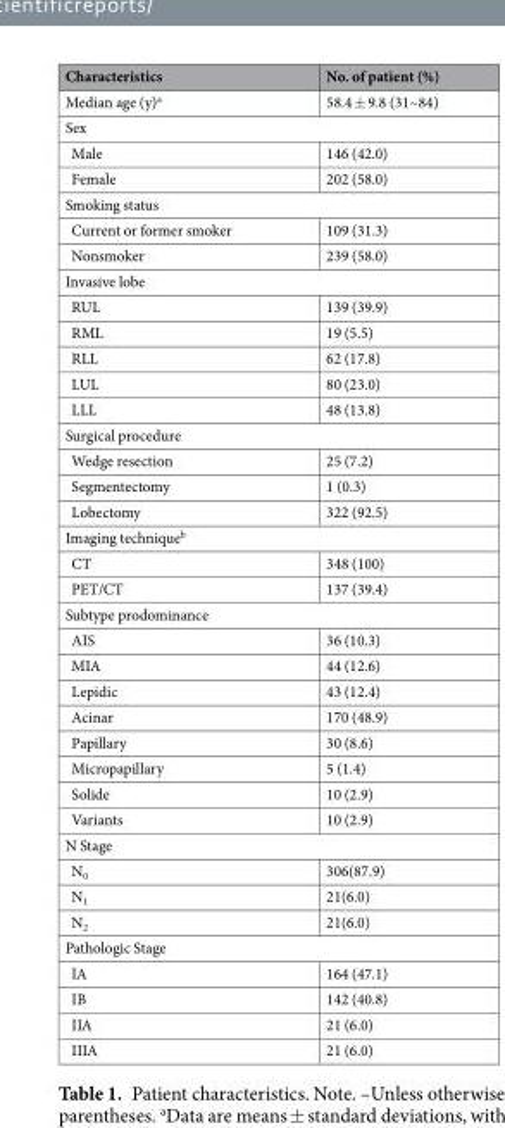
<table><thead><tr><td>Characteristics</td><td>No. of patient (%)</td></tr></thead><tbody><tr><td>Median age (y)<sup>a</sup></td><td>58.4 ± 9.8 (31~84)</td></tr><tr><td colspan="2">Sex</td></tr><tr><td>Male</td><td>146 (42.0)</td></tr><tr><td>Female</td><td>202 (58.0)</td></tr><tr><td colspan="2">Smoking status</td></tr><tr><td>Current or former smoker</td><td>109 (31.3)</td></tr><tr><td>Nonsmoker</td><td>239 (58.0)</td></tr><tr><td colspan="2">Invasive lobe</td></tr><tr><td>RUL</td><td>139 (39.9)</td></tr><tr><td>RML</td><td>19 (5.5)</td></tr><tr><td>RLL</td><td>62 (17.8)</td></tr><tr><td>LUL</td><td>80 (23.0)</td></tr><tr><td>LLL</td><td>48 (13.8)</td></tr><tr><td colspan="2">Surgical procedure</td></tr><tr><td>Wedge resection</td><td>25 (7.2)</td></tr><tr><td>Segmentectomy</td><td>1 (0.3)</td></tr><tr><td>Lobectomy</td><td>322 (92.5)</td></tr><tr><td colspan="2">Imaging technique<sup>b</sup></td></tr><tr><td>CT</td><td>348 (100)</td></tr><tr><td>PET/CT</td><td>137 (39.4)</td></tr><tr><td colspan="2">Subtype prodominance</td></tr><tr><td>AIS</td><td>36 (10.3)</td></tr><tr><td>MIA</td><td>44 (12.6)</td></tr><tr><td>Lepidic</td><td>43 (12.4)</td></tr><tr><td>Acinar</td><td>170 (48.9)</td></tr><tr><td>Papillary</td><td>30 (8.6)</td></tr><tr><td>Micropapillary</td><td>5 (1.4)</td></tr><tr><td>Solide</td><td>10 (2.9)</td></tr><tr><td>Variants</td><td>10 (2.9)</td></tr><tr><td colspan="2">N Stage</td></tr><tr><td>N<sub>0</sub></td><td>306(87.9)</td></tr><tr><td>N<sub>1</sub></td><td>21(6.0)</td></tr><tr><td>N<sub>2</sub></td><td>21(6.0)</td></tr><tr><td colspan="2">Pathologic Stage</td></tr><tr><td>IA</td><td>164 (47.1)</td></tr><tr><td>IB</td><td>142 (40.8)</td></tr><tr><td>IIA</td><td>21 (6.0)</td></tr><tr><td>IIIA</td><td>21 (6.0)</td></tr></tbody></table>